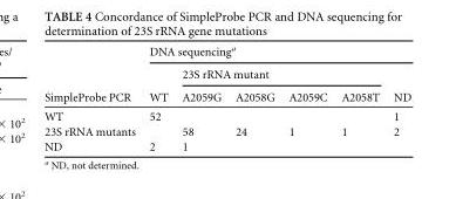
<table><thead><tr><td rowspan="3">SimpleProbe PCR</td><td colspan="6">DNA sequencing<sup>a</sup></td></tr><tr><td rowspan="2">WT</td><td colspan="4">23S rRNA mutant</td><td rowspan="2">ND</td></tr><tr><td>A2059G</td><td>A2058G</td><td>A2059C</td><td>A2058T</td></tr></thead><tbody><tr><td>WT</td><td>52</td><td></td><td></td><td></td><td></td><td>1</td></tr><tr><td>23S rRNA mutants</td><td></td><td>58</td><td>24</td><td>1</td><td>1</td><td>2</td></tr><tr><td>ND</td><td>2</td><td>1</td><td></td><td></td><td></td><td></td></tr></tbody></table>